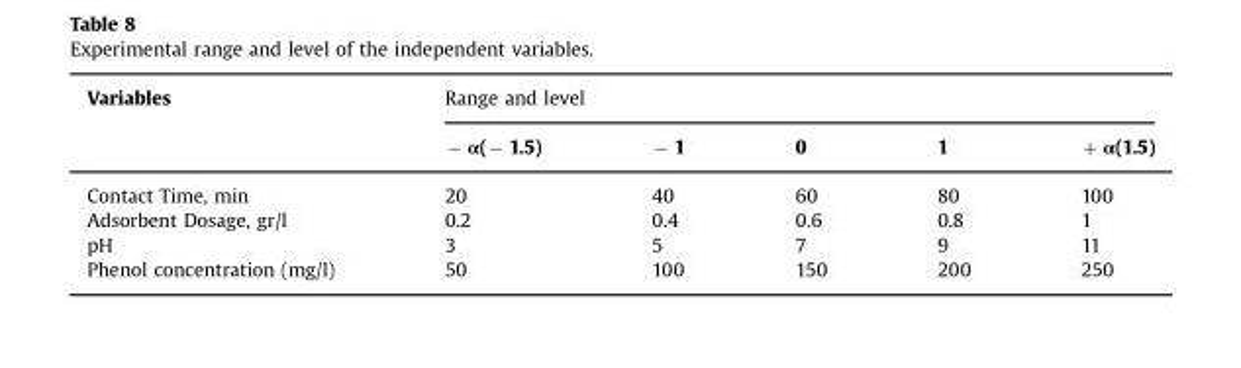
<table><thead><tr><td rowspan="2">Variables</td><td colspan="5">Range and level</td></tr><tr><td>− α(− 1.5)</td><td>− 1</td><td>0</td><td>1</td><td>+ α(1.5)</td></tr></thead><tbody><tr><td>Contact Time, min</td><td>20</td><td>40</td><td>60</td><td>80</td><td>100</td></tr><tr><td>Adsorbent Dosage, gr/l</td><td>0.2</td><td>0.4</td><td>0.6</td><td>0.8</td><td>1</td></tr><tr><td>pH</td><td>3</td><td>5</td><td>7</td><td>9</td><td>11</td></tr><tr><td>Phenol concentration (mg/l)</td><td>50</td><td>100</td><td>150</td><td>200</td><td>250</td></tr></tbody></table>